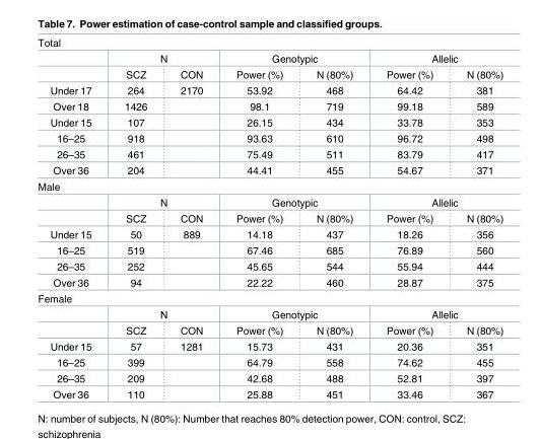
<table><tbody><tr><td colspan="7">Total</td></tr><tr><td></td><td colspan="2">N</td><td colspan="2">Genotypic</td><td colspan="2">Allelic</td></tr><tr><td></td><td>SCZ</td><td>CON</td><td>Power (%)</td><td>N (80%)</td><td>Power (%)</td><td>N (80%)</td></tr><tr><td>Under 17</td><td>264</td><td>2170</td><td>53.92</td><td>468</td><td>64.42</td><td>381</td></tr><tr><td>Over 18</td><td>1426</td><td></td><td>98.1</td><td>719</td><td>99.18</td><td>589</td></tr><tr><td>Under 15</td><td>107</td><td></td><td>26.15</td><td>434</td><td>33.78</td><td>353</td></tr><tr><td>16–25</td><td>918</td><td></td><td>93.63</td><td>610</td><td>96.72</td><td>498</td></tr><tr><td>26–35</td><td>461</td><td></td><td>75.49</td><td>511</td><td>83.79</td><td>417</td></tr><tr><td>Over 36</td><td>204</td><td></td><td>44.41</td><td>455</td><td>54.67</td><td>371</td></tr><tr><td colspan="7">Male</td></tr><tr><td></td><td colspan="2">N</td><td colspan="2">Genotypic</td><td colspan="2">Allelic</td></tr><tr><td></td><td>SCZ</td><td>CON</td><td>Power (%)</td><td>N (80%)</td><td>Power (%)</td><td>N (80%)</td></tr><tr><td>Under 15</td><td>50</td><td>889</td><td>14.18</td><td>437</td><td>18.26</td><td>356</td></tr><tr><td>16–25</td><td>519</td><td></td><td>67.46</td><td>685</td><td>76.89</td><td>560</td></tr><tr><td>26–35</td><td>252</td><td></td><td>45.65</td><td>544</td><td>55.94</td><td>444</td></tr><tr><td>Over 36</td><td>94</td><td></td><td>22.22</td><td>460</td><td>28.87</td><td>375</td></tr><tr><td colspan="7">Female</td></tr><tr><td></td><td colspan="2">N</td><td colspan="2">Genotypic</td><td colspan="2">Allelic</td></tr><tr><td></td><td>SCZ</td><td>CON</td><td>Power (%)</td><td>N (80%)</td><td>Power (%)</td><td>N (80%)</td></tr><tr><td>Under 15</td><td>57</td><td>1281</td><td>15.73</td><td>431</td><td>20.36</td><td>351</td></tr><tr><td>16–25</td><td>399</td><td></td><td>64.79</td><td>558</td><td>74.62</td><td>455</td></tr><tr><td>26–35</td><td>209</td><td></td><td>42.68</td><td>488</td><td>52.81</td><td>397</td></tr><tr><td>Over 36</td><td>110</td><td></td><td>25.88</td><td>451</td><td>33.46</td><td>367</td></tr></tbody></table>